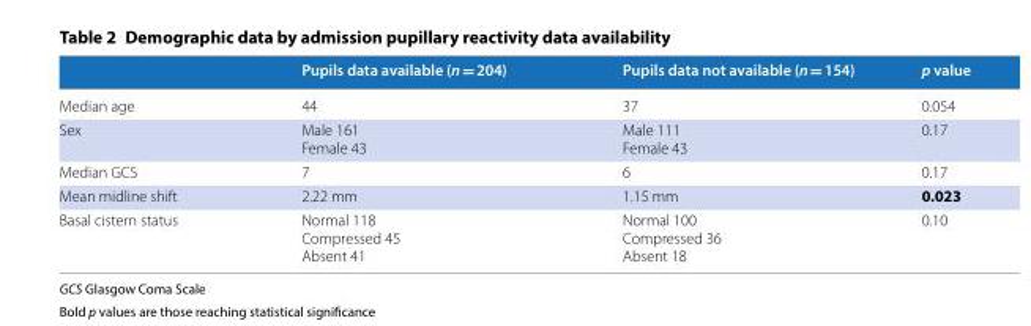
<table><thead><tr><td></td><td>Pupils data available (n = 204)</td><td>Pupils data not available (n = 154)</td><td>p value</td></tr></thead><tbody><tr><td>Median age</td><td>44</td><td>37</td><td>0.054</td></tr><tr><td>Sex</td><td>Male 161 Female 43</td><td>Male 111 Female 43</td><td>0.17</td></tr><tr><td>Median GCS</td><td>7</td><td>6</td><td>0.17</td></tr><tr><td>Mean midline shift</td><td>2.22 mm</td><td>1.15 mm</td><td>0.023</td></tr><tr><td>Basal cistern status</td><td>Normal 118 Compressed 45 Absent 41</td><td>Normal 100 Compressed 36 Absent 18</td><td>0.10</td></tr></tbody></table>